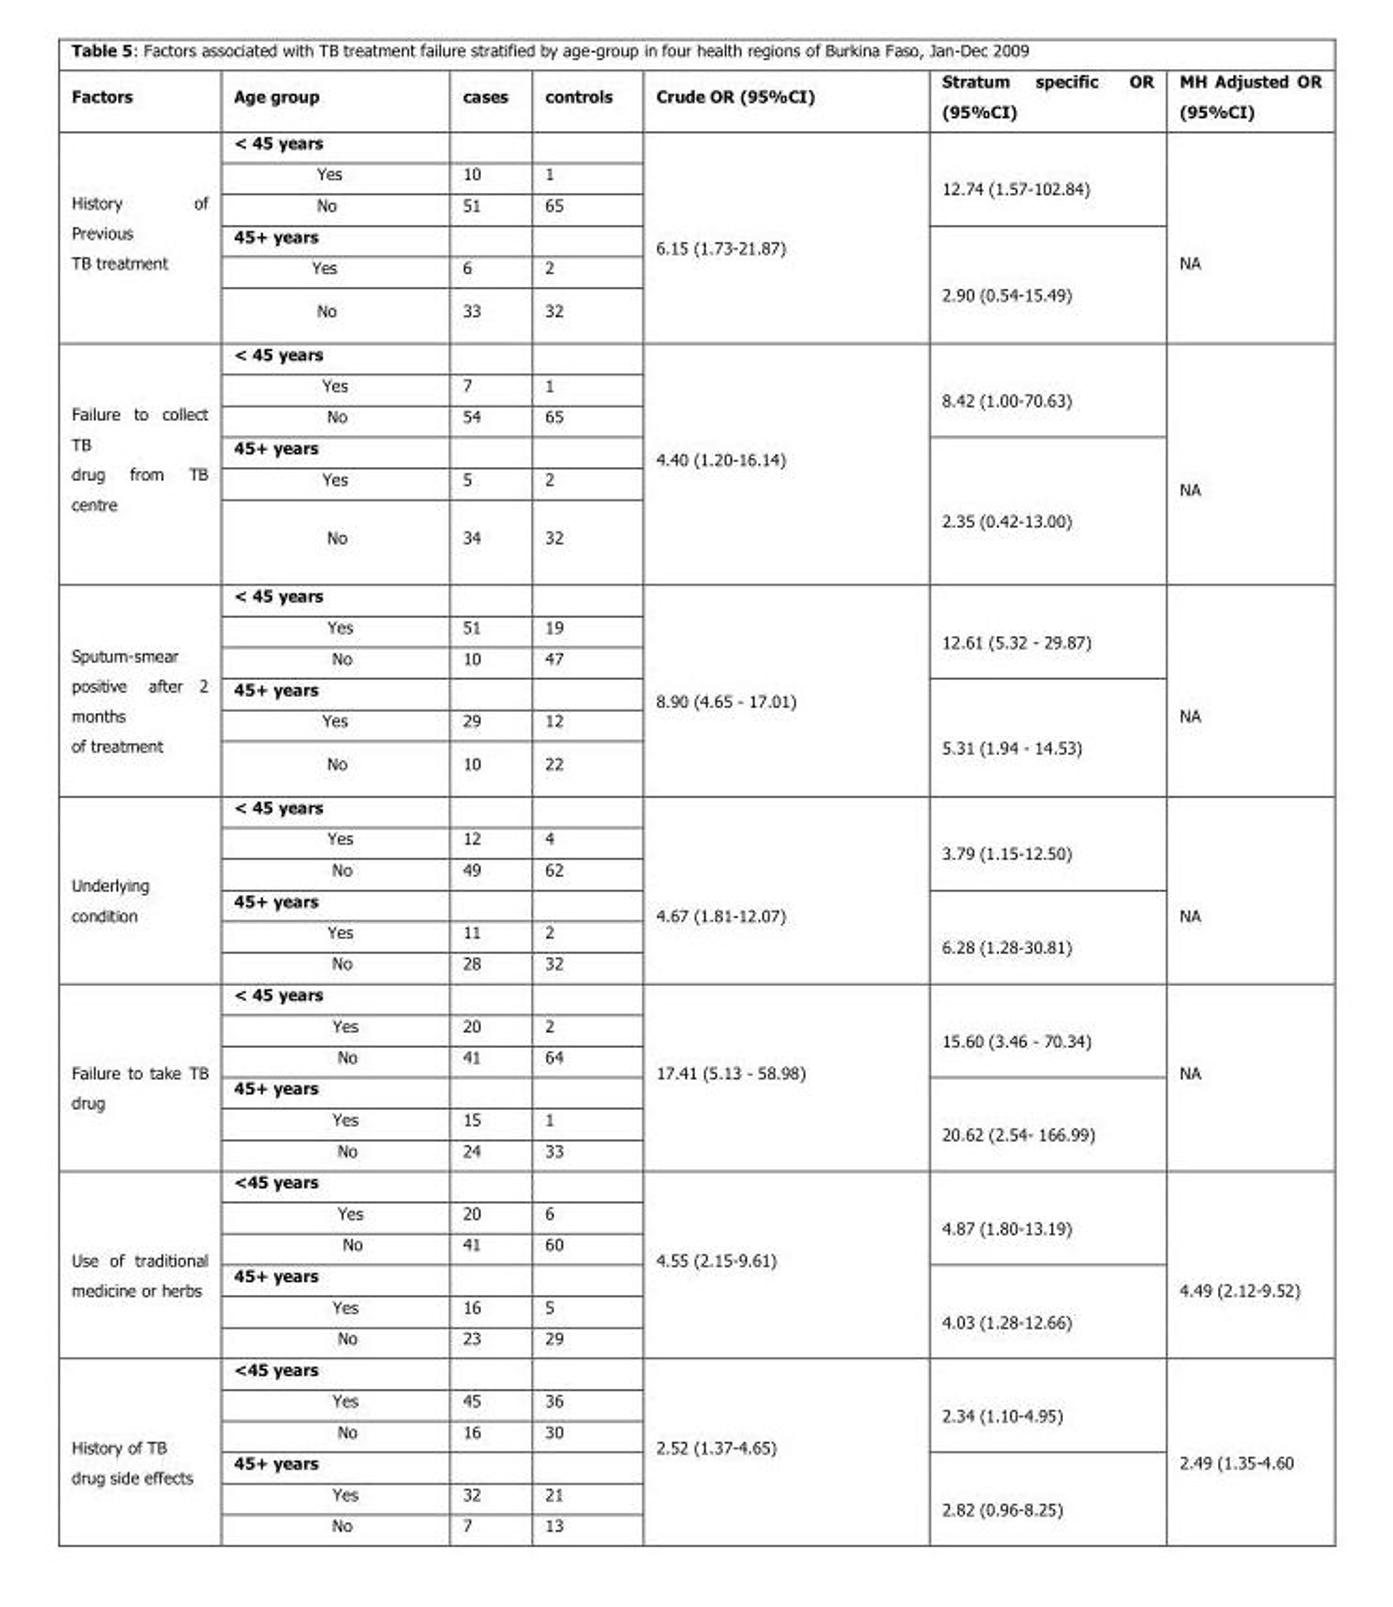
<table><thead><tr><td>Factors</td><td>Age group</td><td>cases</td><td>controls</td><td>Crude OR (95%CI)</td><td>Stratum specific OR (95%CI)</td><td>MH Adjusted OR (95%CI)</td></tr></thead><tbody><tr><td rowspan="6">History of Previous TB treatment</td><td>&lt; 45 years</td><td></td><td></td><td rowspan="6">6.15 (1.73-21.87)</td><td rowspan="3">12.74 (1.57-102.84)</td><td rowspan="6">NA</td></tr><tr><td>Yes</td><td>10</td><td>1</td></tr><tr><td>No</td><td>51</td><td>65</td></tr><tr><td>45+ years</td><td></td><td></td><td rowspan="3">2.90 (0.54-15.49)</td></tr><tr><td>Yes</td><td>6</td><td>2</td></tr><tr><td>No</td><td>33</td><td>32</td></tr><tr><td rowspan="6">Failure to collect TB drug from TB centre</td><td>&lt; 45 years</td><td></td><td></td><td rowspan="6">4.40 (1.20-16.14)</td><td rowspan="3">8.42 (1.00-70.63)</td><td rowspan="6">NA</td></tr><tr><td>Yes</td><td>7</td><td>1</td></tr><tr><td>No</td><td>54</td><td>65</td></tr><tr><td>45+ years</td><td></td><td></td><td rowspan="3">2.35 (0.42-13.00)</td></tr><tr><td>Yes</td><td>5</td><td>2</td></tr><tr><td>No</td><td>34</td><td>32</td></tr><tr><td rowspan="6">Sputum-smear positive after 2 months of treatment</td><td>&lt; 45 years</td><td></td><td></td><td rowspan="6">8.90 (4.65 - 17.01)</td><td rowspan="3">12.61 (5.32 - 29.87)</td><td rowspan="6">NA</td></tr><tr><td>Yes</td><td>51</td><td>19</td></tr><tr><td>No</td><td>10</td><td>47</td></tr><tr><td>45+ years</td><td></td><td></td><td rowspan="3">5.31 (1.94 - 14.53)</td></tr><tr><td>Yes</td><td>29</td><td>12</td></tr><tr><td>No</td><td>10</td><td>22</td></tr><tr><td rowspan="6">Underlying condition</td><td>&lt; 45 years</td><td></td><td></td><td rowspan="6">4.67 (1.81-12.07)</td><td rowspan="3">3.79 (1.15-12.50)</td><td rowspan="6">NA</td></tr><tr><td>Yes</td><td>12</td><td>4</td></tr><tr><td>No</td><td>49</td><td>62</td></tr><tr><td>45+ years</td><td></td><td></td><td rowspan="3">6.28 (1.28-30.81)</td></tr><tr><td>Yes</td><td>11</td><td>2</td></tr><tr><td>No</td><td>28</td><td>32</td></tr><tr><td rowspan="6">Failure to take TB drug</td><td>&lt; 45 years</td><td></td><td></td><td rowspan="6">17.41 (5.13 - 58.98)</td><td rowspan="3">15.60 (3.46 - 70.34)</td><td rowspan="6">NA</td></tr><tr><td>Yes</td><td>20</td><td>2</td></tr><tr><td>No</td><td>41</td><td>64</td></tr><tr><td>45+ years</td><td></td><td></td><td rowspan="3">20.62 (2.54- 166.99)</td></tr><tr><td>Yes</td><td>15</td><td>1</td></tr><tr><td>No</td><td>24</td><td>33</td></tr><tr><td rowspan="6">Use of traditional medicine or herbs</td><td>&lt;45 years</td><td></td><td></td><td rowspan="6">4.55 (2.15-9.61)</td><td rowspan="3">4.87 (1.80-13.19)</td><td rowspan="6">4.49 (2.12-9.52)</td></tr><tr><td>Yes</td><td>20</td><td>6</td></tr><tr><td>No</td><td>41</td><td>60</td></tr><tr><td>45+ years</td><td></td><td></td><td rowspan="3">4.03 (1.28-12.66)</td></tr><tr><td>Yes</td><td>16</td><td>5</td></tr><tr><td>No</td><td>23</td><td>29</td></tr><tr><td rowspan="6">History of TB drug side effects</td><td>&lt;45 years</td><td></td><td></td><td rowspan="6">2.52 (1.37-4.65)</td><td rowspan="3">2.34 (1.10-4.95)</td><td rowspan="6">2.49 (1.35-4.60</td></tr><tr><td>Yes</td><td>45</td><td>36</td></tr><tr><td>No</td><td>16</td><td>30</td></tr><tr><td>45+ years</td><td></td><td></td><td rowspan="3">2.82 (0.96-8.25)</td></tr><tr><td>Yes</td><td>32</td><td>21</td></tr><tr><td>No</td><td>7</td><td>13</td></tr></tbody></table>